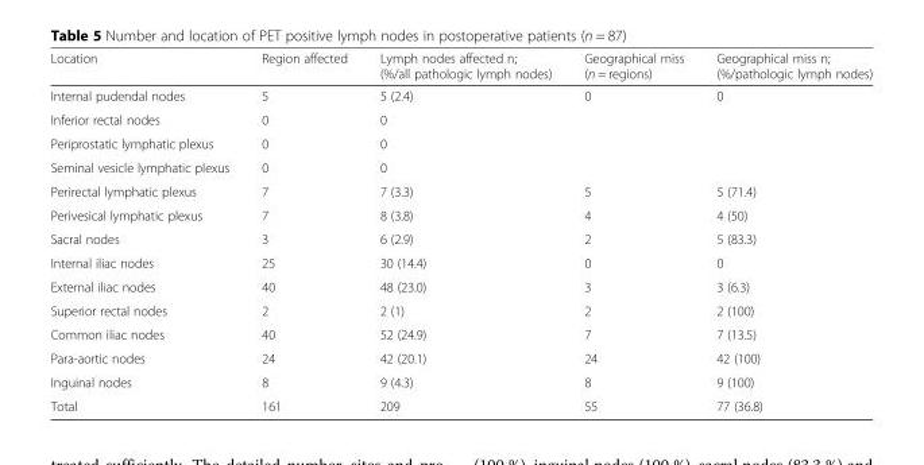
<table><thead><tr><td>Location</td><td>Region affected</td><td>Lymph nodes affected n; (%/all pathologic lymph nodes)</td><td>Geographical miss (n = regions)</td><td>Geographical miss n; (%/pathologic lymph nodes)</td></tr></thead><tbody><tr><td>Internal pudendal nodes</td><td>5</td><td>5 (2.4)</td><td>0</td><td>0</td></tr><tr><td>Inferior rectal nodes</td><td>0</td><td>0</td><td></td><td></td></tr><tr><td>Periprostatic lymphatic plexus</td><td>0</td><td>0</td><td></td><td></td></tr><tr><td>Seminal vesicle lymphatic plexus</td><td>0</td><td>0</td><td></td><td></td></tr><tr><td>Perirectal lymphatic plexus</td><td>7</td><td>7 (3.3)</td><td>5</td><td>5 (71.4)</td></tr><tr><td>Perivesical lymphatic plexus</td><td>7</td><td>8 (3.8)</td><td>4</td><td>4 (50)</td></tr><tr><td>Sacral nodes</td><td>3</td><td>6 (2.9)</td><td>2</td><td>5 (83.3)</td></tr><tr><td>Internal iliac nodes</td><td>25</td><td>30 (14.4)</td><td>0</td><td>0</td></tr><tr><td>External iliac nodes</td><td>40</td><td>48 (23.0)</td><td>3</td><td>3 (6.3)</td></tr><tr><td>Superior rectal nodes</td><td>2</td><td>2 (1)</td><td>2</td><td>2 (100)</td></tr><tr><td>Common iliac nodes</td><td>40</td><td>52 (24.9)</td><td>7</td><td>7 (13.5)</td></tr><tr><td>Para-aortic nodes</td><td>24</td><td>42 (20.1)</td><td>24</td><td>42 (100)</td></tr><tr><td>Inguinal nodes</td><td>8</td><td>9 (4.3)</td><td>8</td><td>9 (100)</td></tr><tr><td>Total</td><td>161</td><td>209</td><td>55</td><td>77 (36.8)</td></tr></tbody></table>